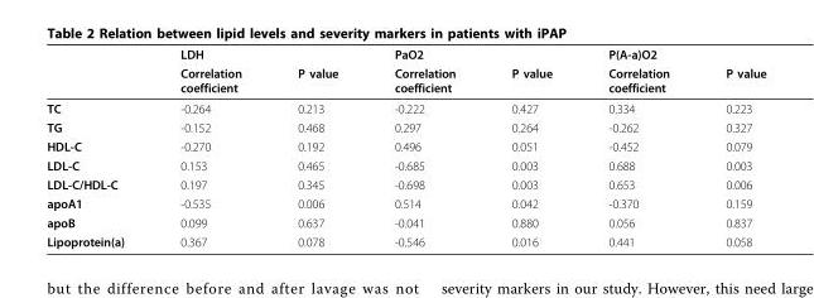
<table><thead><tr><td rowspan="2"></td><td rowspan="2">LDH Correlation coefficient</td><td rowspan="2">P value</td><td rowspan="2">PaO2 Correlation coefficient</td><td rowspan="2">P value</td><td colspan="2">P(A-a)O2</td></tr><tr><td>Correlation coefficient</td><td>P value</td></tr></thead><tbody><tr><td>TC</td><td>-0.264</td><td>0.213</td><td>-0.222</td><td>0.427</td><td>0.334</td><td>0.223</td></tr><tr><td>TG</td><td>-0.152</td><td>0.468</td><td>0.297</td><td>0.264</td><td>-0.262</td><td>0.327</td></tr><tr><td>HDL-C</td><td>-0.270</td><td>0.192</td><td>0.496</td><td>0.051</td><td>-0.452</td><td>0.079</td></tr><tr><td>LDL-C</td><td>0.153</td><td>0.465</td><td>-0.685</td><td>0.003</td><td>0.688</td><td>0.003</td></tr><tr><td>LDL-C/HDL-C</td><td>0.197</td><td>0.345</td><td>-0.698</td><td>0.003</td><td>0.653</td><td>0.006</td></tr><tr><td>apoA1</td><td>-0.535</td><td>0.006</td><td>0.514</td><td>0.042</td><td>-0.370</td><td>0.159</td></tr><tr><td>apoB</td><td>0.099</td><td>0.637</td><td>-0.041</td><td>0.880</td><td>0.056</td><td>0.837</td></tr><tr><td>Lipoprotein(a)</td><td>0.367</td><td>0.078</td><td>-0.546</td><td>0.016</td><td>0.441</td><td>0.058</td></tr></tbody></table>